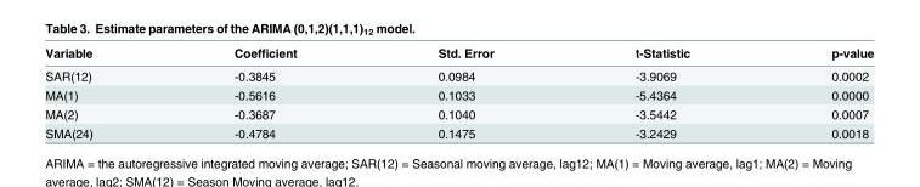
<table><thead><tr><td>Variable</td><td>Coefficient</td><td>Std. Error</td><td>t-Statistic</td><td>p-value</td></tr></thead><tbody><tr><td>SAR(12)</td><td>-0.3845</td><td>0.0984</td><td>-3.9069</td><td>0.0002</td></tr><tr><td>MA(1)</td><td>-0.5616</td><td>0.1033</td><td>-5.4364</td><td>0.0000</td></tr><tr><td>MA(2)</td><td>-0.3687</td><td>0.1040</td><td>-3.5442</td><td>0.0007</td></tr><tr><td>SMA(24)</td><td>-0.4784</td><td>0.1475</td><td>-3.2429</td><td>0.0018</td></tr></tbody></table>